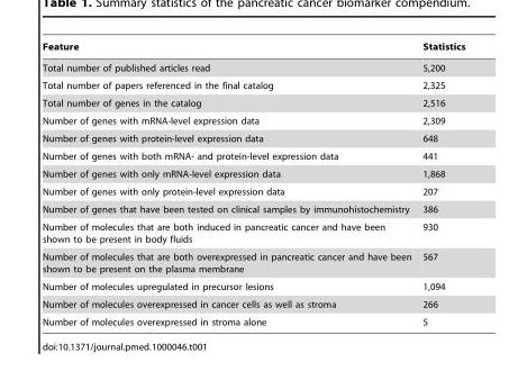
<table><thead><tr><td>Feature</td><td>Statistics</td></tr></thead><tbody><tr><td>Total number of published articles read</td><td>5,200</td></tr><tr><td>Total number of papers referenced in the final catalog</td><td>2,325</td></tr><tr><td>Total number of genes in the catalog</td><td>2,516</td></tr><tr><td>Number of genes with mRNA-level expression data</td><td>2,309</td></tr><tr><td>Number of genes with protein-level expression data</td><td>648</td></tr><tr><td>Number of genes with both mRNA- and protein-level expression data</td><td>441</td></tr><tr><td>Number of genes with only mRNA-level expression data</td><td>1,868</td></tr><tr><td>Number of genes with only protein-level expression data</td><td>207</td></tr><tr><td>Number of genes that have been tested on clinical samples by immunohistochemistry</td><td>386</td></tr><tr><td>Number of molecules that are both induced in pancreatic cancer and have been shown to be present in body fluids</td><td>930</td></tr><tr><td>Number of molecules that are both overexpressed in pancreatic cancer and have been shown to be present on the plasma membrane</td><td>567</td></tr><tr><td>Number of molecules upregulated in precursor lesions</td><td>1,094</td></tr><tr><td>Number of molecules overexpressed in cancer cells as well as stroma</td><td>266</td></tr><tr><td>Number of molecules overexpressed in stroma alone</td><td>5</td></tr></tbody></table>